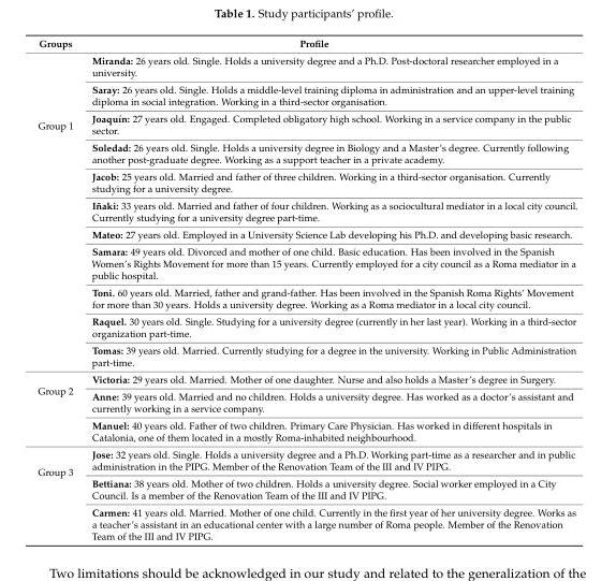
<table><thead><tr><td>Groups</td><td>Profile</td></tr></thead><tbody><tr><td rowspan="11">Group 1</td><td>Miranda: 26 years old. Single. Holds a university degree and a Ph.D. Post-doctoral researcher employed in a university.</td></tr><tr><td>Saray: 26 years old. Single. Holds a middle-level training diploma in administration and an upper-level training diploma in social integration. Working in a third-sector organisation.</td></tr><tr><td>Joaquín: 27 years old. Engaged. Completed obligatory high school. Working in a service company in the public sector.</td></tr><tr><td>Soledad: 26 years old. Single. Holds a university degree in Biology and a Master’s degree. Currently following another post-graduate degree. Working as a support teacher in a private academy.</td></tr><tr><td>Jacob: 25 years old. Married and father of three children. Working in a third-sector organisation. Currently studying for a university degree.</td></tr><tr><td>Iñaki: 33 years old. Married and father of four children. Working as a sociocultural mediator in a local city council. Currently studying for a university degree part-time.</td></tr><tr><td>Mateo: 27 years old. Employed in a University Science Lab developing his Ph.D. and developing basic research.</td></tr><tr><td>Samara: 49 years old. Divorced and mother of one child. Basic education. Has been involved in the Spanish Women’s Rights Movement for more than 15 years. Currently employed for a city council as a Roma mediator in a public hospital.</td></tr><tr><td>Toni. 60 years old. Married, father and grand-father. Has been involved in the Spanish Roma Rights’ Movement for more than 30 years. Holds a university degree. Working as a Roma mediator in a local city council.</td></tr><tr><td>Raquel. 30 years old. Single. Studying for a university degree (currently in her last year). Working in a third-sector organization part-time.</td></tr><tr><td>Tomas: 39 years old. Married. Currently studying for a degree in the university. Working in Public Administration part-time.</td></tr><tr><td rowspan="3">Group 2</td><td>Victoria: 29 years old. Married. Mother of one daughter. Nurse and also holds a Master’s degree in Surgery.</td></tr><tr><td>Anne: 39 years old. Married and no children. Holds a university degree. Has worked as a doctor’s assistant and currently working in a service company.</td></tr><tr><td>Manuel: 40 years old. Father of two children. Primary Care Physician. Has worked in different hospitals in Catalonia, one of them located in a mostly Roma-inhabited neighbourhood.</td></tr><tr><td rowspan="3">Group 3</td><td>Jose: 32 years old. Single. Holds a university degree and a Ph.D. Working part-time as a researcher and in public administration in the PIPG. Member of the Renovation Team of the III and IV PIPG.</td></tr><tr><td>Bettiana: 38 years old. Mother of two children. Holds a university degree. Social worker employed in a City Council. Is a member of the Renovation Team of the III and IV PIPG.</td></tr><tr><td>Carmen: 41 years old. Married. Mother of one child. Currently in the first year of her university degree. Works as a teacher’s assistant in an educational center with a large number of Roma people. Member of the Renovation Team of the III and IV PIPG.</td></tr></tbody></table>